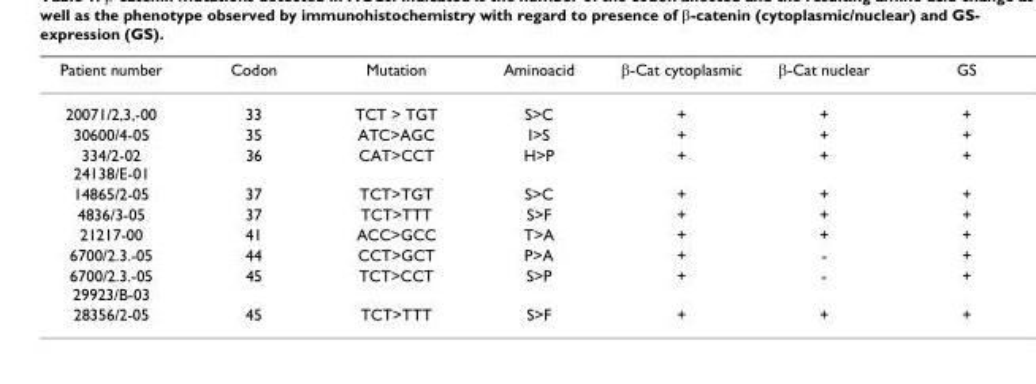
<table><thead><tr><td>Patient number</td><td>Codon</td><td>Mutation</td><td>Aminoacid</td><td>β-Cat cytoplasmic</td><td>β-Cat nuclear</td><td>GS</td></tr></thead><tbody><tr><td>20071/2,3,-00</td><td>33</td><td>TCT &gt; TGT</td><td>S&gt;C</td><td>+</td><td>+</td><td>+</td></tr><tr><td>30600/4-05</td><td>35</td><td>ATC&gt;AGC</td><td>I&gt;S</td><td>+</td><td>+</td><td>+</td></tr><tr><td>334/2-02 24138/E-01</td><td>36</td><td>CAT&gt;CCT</td><td>H&gt;P</td><td>+</td><td>+</td><td>+</td></tr><tr><td>14865/2-05</td><td>37</td><td>TCT&gt;TGT</td><td>S&gt;C</td><td>+</td><td>+</td><td>+</td></tr><tr><td>4836/3-05</td><td>37</td><td>TCT&gt;TTT</td><td>S&gt;F</td><td>+</td><td>+</td><td>+</td></tr><tr><td>21217-00</td><td>41</td><td>ACC&gt;GCC</td><td>T&gt;A</td><td>+</td><td>+</td><td>+</td></tr><tr><td>6700/2.3.-05</td><td>44</td><td>CCT&gt;GCT</td><td>P&gt;A</td><td>+</td><td>-</td><td>+</td></tr><tr><td>6700/2.3.-05 29923/B-03</td><td>45</td><td>TCT&gt;CCT</td><td>S&gt;P</td><td>+</td><td>-</td><td>+</td></tr><tr><td>28356/2-05</td><td>45</td><td>TCT&gt;TTT</td><td>S&gt;F</td><td>+</td><td>+</td><td>+</td></tr></tbody></table>